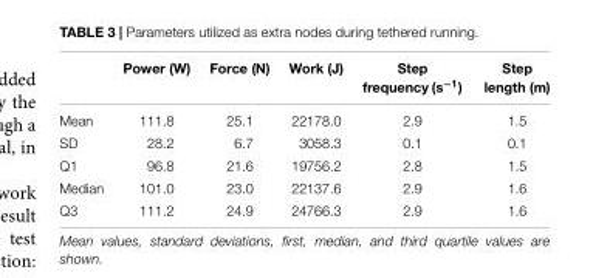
<table><thead><tr><td></td><td>Power (W)</td><td>Force (N)</td><td>Work (J)</td><td>Step frequency (s<sup>−1</sup>)</td><td>Step length (m)</td></tr></thead><tbody><tr><td>Mean</td><td>111.8</td><td>25.1</td><td>22178.0</td><td>2.9</td><td>1.5</td></tr><tr><td>SD</td><td>28.2</td><td>6.7</td><td>3058.3</td><td>0.1</td><td>0.1</td></tr><tr><td>Q1</td><td>96.8</td><td>21.6</td><td>19756.2</td><td>2.8</td><td>1.5</td></tr><tr><td>Median</td><td>101.0</td><td>23.0</td><td>22137.6</td><td>2.9</td><td>1.6</td></tr><tr><td>Q3</td><td>111.2</td><td>24.9</td><td>24766.3</td><td>2.9</td><td>1.6</td></tr></tbody></table>